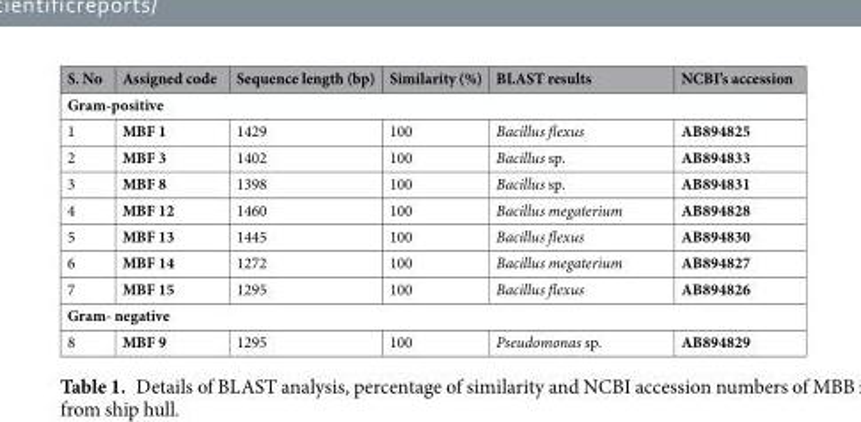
<table><thead><tr><td>S. No</td><td>Assigned code</td><td>Sequence length (bp)</td><td>Similarity (%)</td><td>BLAST results</td><td>NCBI’s accession</td></tr></thead><tbody><tr><td colspan="6">Gram-positive</td></tr><tr><td>1</td><td>MBF 1</td><td>1429</td><td>100</td><td>Bacillus flexus</td><td>AB894825</td></tr><tr><td>2</td><td>MBF 3</td><td>1402</td><td>100</td><td>Bacillus sp.</td><td>AB894833</td></tr><tr><td>3</td><td>MBF 8</td><td>1398</td><td>100</td><td>Bacillus sp.</td><td>AB894831</td></tr><tr><td>4</td><td>MBF 12</td><td>1460</td><td>100</td><td>Bacillus megaterium</td><td>AB894828</td></tr><tr><td>5</td><td>MBF 13</td><td>1445</td><td>100</td><td>Bacillus flexus</td><td>AB894830</td></tr><tr><td>6</td><td>MBF 14</td><td>1272</td><td>100</td><td>Bacillus megaterium</td><td>AB894827</td></tr><tr><td>7</td><td>MBF 15</td><td>1295</td><td>100</td><td>Bacillus flexus</td><td>AB894826</td></tr><tr><td colspan="6">Gram- negative</td></tr><tr><td>8</td><td>MBF 9</td><td>1295</td><td>100</td><td>Pseudomonas sp.</td><td>AB894829</td></tr></tbody></table>